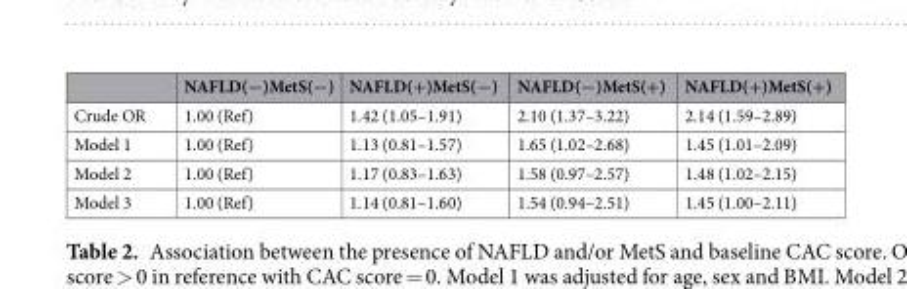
<table><thead><tr><td></td><td>NAFLD(−)MetS(−)</td><td>NAFLD(+)MetS(−)</td><td>NAFLD(−)MetS(+)</td><td>NAFLD(+)MetS(+)</td></tr></thead><tbody><tr><td>Crude OR</td><td>1.00 (Ref)</td><td>1.42 (1.05–1.91)</td><td>2.10 (1.37–3.22)</td><td>2.14 (1.59–2.89)</td></tr><tr><td>Model 1</td><td>1.00 (Ref)</td><td>1.13 (0.81–1.57)</td><td>1.65 (1.02–2.68)</td><td>1.45 (1.01–2.09)</td></tr><tr><td>Model 2</td><td>1.00 (Ref)</td><td>1.17 (0.83–1.63)</td><td>1.58 (0.97–2.57)</td><td>1.48 (1.02–2.15)</td></tr><tr><td>Model 3</td><td>1.00 (Ref)</td><td>1.14 (0.81–1.60)</td><td>1.54 (0.94–2.51)</td><td>1.45 (1.00–2.11)</td></tr></tbody></table>